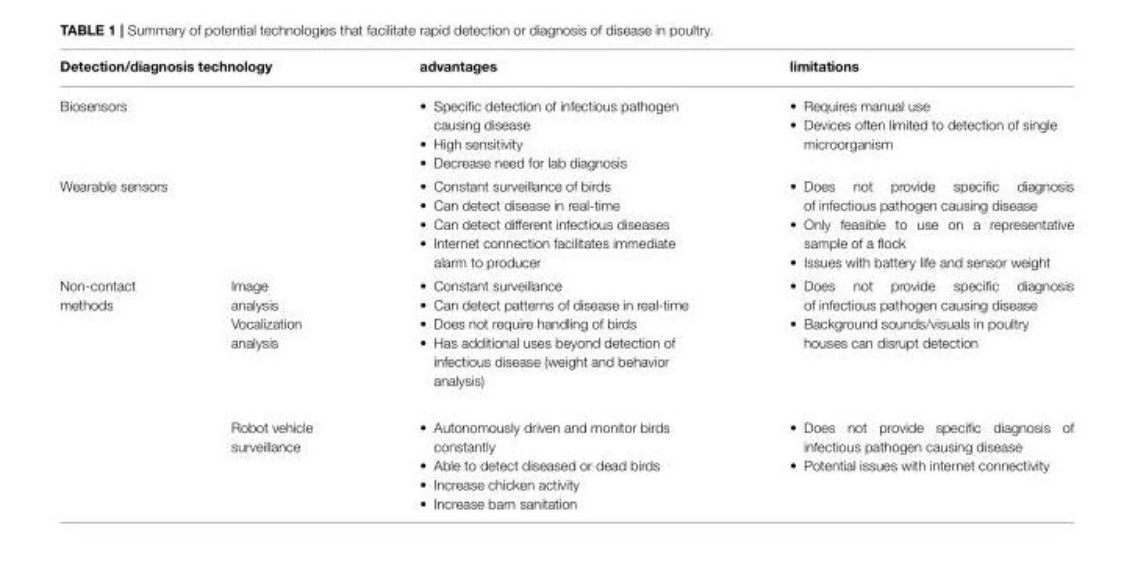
<table><thead><tr><td rowspan="3" colspan="2">Detection/diagnosis technology Biosensors Wearable sensors</td><td rowspan="4">advantages • Specific detection of infectious pathogen causing disease • High sensitivity • Decrease need for lab diagnosis • Constant surveillance of birds • Can detect disease in real-time • Can detect different infectious diseases • Internet connection facilitates immediate alarm to producer • Constant surveillance • Can detect patterns of disease in real-time • Does not require handling of birds • Has additional uses beyond detection of infectious disease (weight and behavior analysis)</td><td rowspan="4">limitations • Requires manual use • Devices often limited to detection of single microorganism • Does not provide specific diagnosis of infectious pathogen causing disease • Only feasible to use on a representative sample of a flock • Issues with battery life and sensor weight • Does not provide specific diagnosis of infectious pathogen causing disease • Background sounds/visuals in poultry houses can disrupt detection</td></tr><tr></tr><tr></tr><tr><td>Non-contact methods</td><td>Image analysis Vocalization analysis</td></tr></thead><tbody><tr><td></td><td>Robot vehicle surveillance</td><td>• Autonomously driven and monitor birds constantly • Able to detect diseased or dead birds • Increase chicken activity • Increase barn sanitation</td><td>• Does not provide specific diagnosis of infectious pathogen causing disease • Potential issues with internet connectivity</td></tr></tbody></table>